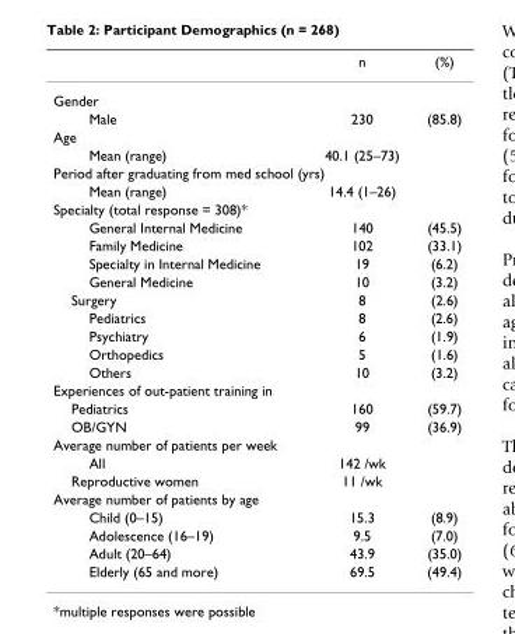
<table><thead><tr><td></td><td>n</td><td>(%)</td></tr></thead><tbody><tr><td colspan="3">Gender</td></tr><tr><td>Male</td><td>230</td><td>(85.8)</td></tr><tr><td colspan="3">Age</td></tr><tr><td>Mean (range)</td><td>40.1 (25–73)</td><td></td></tr><tr><td colspan="3">Period after graduating from med school (yrs)</td></tr><tr><td>Mean (range)</td><td>14.4 (1–26)</td><td></td></tr><tr><td colspan="3">Specialty (total response = 308)*</td></tr><tr><td>General Internal Medicine</td><td>140</td><td>(45.5)</td></tr><tr><td>Family Medicine</td><td>102</td><td>(33.1)</td></tr><tr><td>Specialty in Internal Medicine</td><td>19</td><td>(6.2)</td></tr><tr><td>General Medicine</td><td>10</td><td>(3.2)</td></tr><tr><td>Surgery</td><td>8</td><td>(2.6)</td></tr><tr><td>Pediatrics</td><td>8</td><td>(2.6)</td></tr><tr><td>Psychiatry</td><td>6</td><td>(1.9)</td></tr><tr><td>Orthopedics</td><td>5</td><td>(1.6)</td></tr><tr><td>Others</td><td>10</td><td>(3.2)</td></tr><tr><td colspan="3">Experiences of out-patient training in</td></tr><tr><td>Pediatrics</td><td>160</td><td>(59.7)</td></tr><tr><td>OB/GYN</td><td>99</td><td>(36.9)</td></tr><tr><td colspan="3">Average number of patients per week</td></tr><tr><td>All</td><td>142 /wk</td><td></td></tr><tr><td>Reproductive women</td><td>11 /wk</td><td></td></tr><tr><td colspan="3">Average number of patients by age</td></tr><tr><td>Child (0–15)</td><td>15.3</td><td>(8.9)</td></tr><tr><td>Adolescence (16–19)</td><td>9.5</td><td>(7.0)</td></tr><tr><td>Adult (20–64)</td><td>43.9</td><td>(35.0)</td></tr><tr><td>Elderly (65 and more)</td><td>69.5</td><td>(49.4)</td></tr></tbody></table>